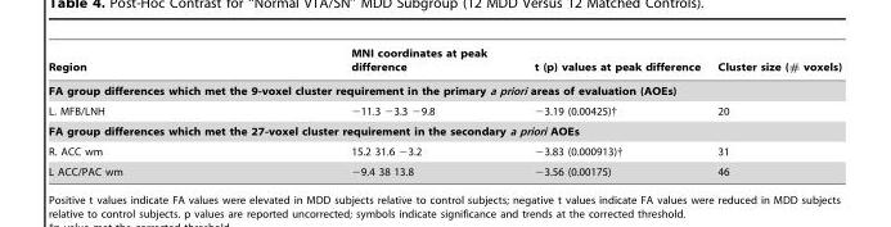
<table><thead><tr><td>Region</td><td>MNI coordinates at peak difference</td><td>t (p) values at peak difference</td><td>Cluster size (# voxels)</td></tr></thead><tbody><tr><td colspan="4">FA group differences which met the 9-voxel cluster requirement in the primary a priori areas of evaluation (AOEs)</td></tr><tr><td>L. MFB/LNH</td><td>−11.3 −3.3 −9.8</td><td>−3.19 (0.00425)†</td><td>20</td></tr><tr><td colspan="4">FA group differences which met the 27-voxel cluster requirement in the secondary a priori AOEs</td></tr><tr><td>R. ACC wm</td><td>15.2 31.6 −3.2</td><td>−3.83 (0.000913)†</td><td>31</td></tr><tr><td>L ACC/PAC wm</td><td>−9.4 38 13.8</td><td>−3.56 (0.00175)</td><td>46</td></tr></tbody></table>